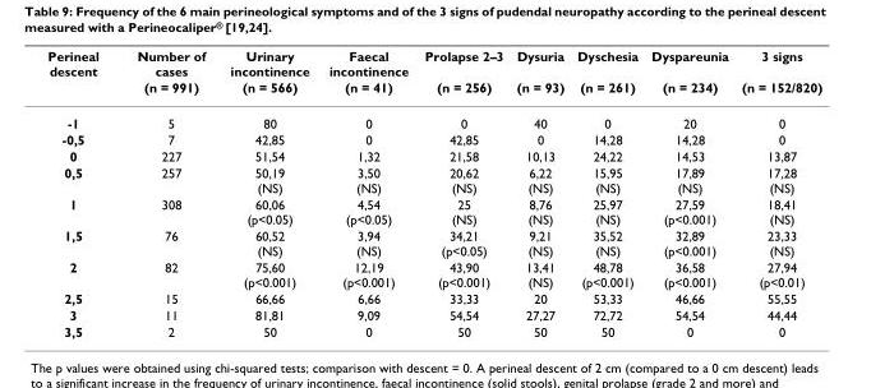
<table><thead><tr><td rowspan="2">Perineal descent</td><td rowspan="2">Number of cases (n = 991)</td><td rowspan="2">Urinary incontinence (n = 566)</td><td rowspan="2">Faecal incontinence (n = 41)</td><td rowspan="2">Prolapse 2–3 (n = 256)</td><td rowspan="2">Dysuria (n = 93)</td><td rowspan="2">Dyschesia (n = 261)</td><td rowspan="2">Dyspareunia (n = 234)</td><td rowspan="2">3 signs (n = 152/820)</td></tr><tr></tr></thead><tbody><tr><td>-1</td><td>5</td><td>80</td><td>0</td><td>0</td><td>40</td><td>0</td><td>20</td><td>0</td></tr><tr><td>-0,5</td><td>7</td><td>42,85</td><td>0</td><td>42,85</td><td>0</td><td>14,28</td><td>14,28</td><td>0</td></tr><tr><td>0</td><td>227</td><td>51,54</td><td>1,32</td><td>21,58</td><td>10,13</td><td>24,22</td><td>14,53</td><td>13,87</td></tr><tr><td>0,5</td><td>257</td><td>50,19 (NS)</td><td>3,50 (NS)</td><td>20,62 (NS)</td><td>6,22 (NS)</td><td>15,95 (NS)</td><td>17,89 (NS)</td><td>17,28 (NS)</td></tr><tr><td>1</td><td>308</td><td>60,06 (p&lt;0.05)</td><td>4,54 (p&lt;0.05)</td><td>25 (NS)</td><td>8,76 (NS)</td><td>25,97 (NS)</td><td>27,59 (p&lt;0.001)</td><td>18,41 (NS)</td></tr><tr><td>1,5</td><td>76</td><td>60,52 (NS)</td><td>3,94 (NS)</td><td>34,21 (p&lt;0.05)</td><td>9,21 (NS)</td><td>35,52 (NS)</td><td>32,89 (p&lt;0.001)</td><td>23,33 (NS)</td></tr><tr><td>2</td><td>82</td><td>75,60 (p&lt;0.001)</td><td>12,19 (p&lt;0.001)</td><td>43,90 (p&lt;0.001)</td><td>13,41 (NS)</td><td>48,78 (p&lt;0.001)</td><td>36,58 (p&lt;0.001)</td><td>27,94 (p&lt;0.01)</td></tr><tr><td>2,5</td><td>15</td><td>66,66</td><td>6,66</td><td>33,33</td><td>20</td><td>53,33</td><td>46,66</td><td>55,55</td></tr><tr><td>3</td><td>11</td><td>81,81</td><td>9,09</td><td>54,54</td><td>27,27</td><td>72,72</td><td>54,54</td><td>44,44</td></tr><tr><td>3,5</td><td>2</td><td>50</td><td>0</td><td>50</td><td>50</td><td>50</td><td>0</td><td>0</td></tr></tbody></table>